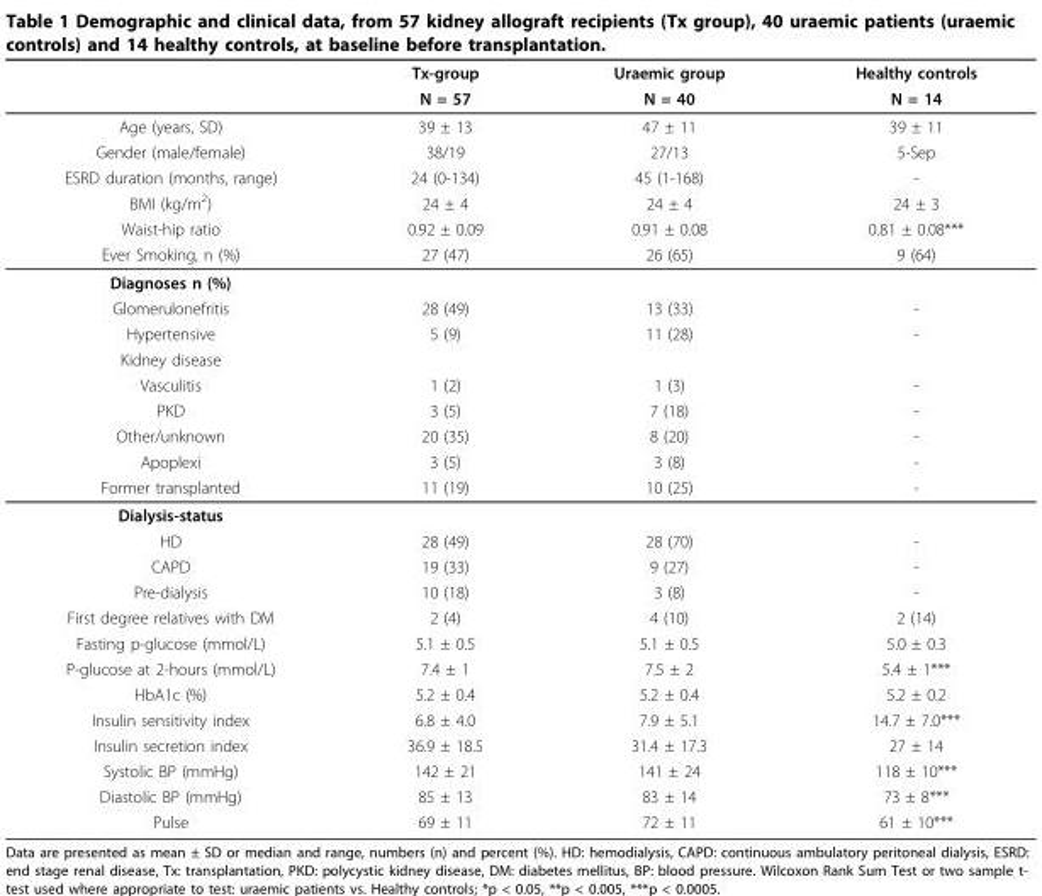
<table><thead><tr><td rowspan="2"></td><td rowspan="2">Tx-group N = 57</td><td rowspan="2">Uraemic group N = 40</td><td rowspan="2">Healthy controls N = 14</td></tr><tr></tr></thead><tbody><tr><td>Age (years, SD)</td><td>39 ± 13</td><td>47 ± 11</td><td>39 ± 11</td></tr><tr><td>Gender (male/female)</td><td>38/19</td><td>27/13</td><td>5-Sep</td></tr><tr><td>ESRD duration (months, range)</td><td>24 (0-134)</td><td>45 (1-168)</td><td>-</td></tr><tr><td>BMI (kg/m<sup>2</sup>)</td><td>24 ± 4</td><td>24 ± 4</td><td>24 ± 3</td></tr><tr><td>Waist-hip ratio</td><td>0.92 ± 0.09</td><td>0.91 ± 0.08</td><td>0.81 ± 0.08***</td></tr><tr><td>Ever Smoking, n (%)</td><td>27 (47)</td><td>26 (65)</td><td>9 (64)</td></tr><tr><td colspan="4">Diagnoses n (%)</td></tr><tr><td>Glomerulonefritis</td><td>28 (49)</td><td>13 (33)</td><td>-</td></tr><tr><td>Hypertensive</td><td>5 (9)</td><td>11 (28)</td><td>-</td></tr><tr><td colspan="4">Kidney disease</td></tr><tr><td>Vasculitis</td><td>1 (2)</td><td>1 (3)</td><td>-</td></tr><tr><td>PKD</td><td>3 (5)</td><td>7 (18)</td><td>-</td></tr><tr><td>Other/unknown</td><td>20 (35)</td><td>8 (20)</td><td>-</td></tr><tr><td>Apoplexi</td><td>3 (5)</td><td>3 (8)</td><td>-</td></tr><tr><td>Former transplanted</td><td>11 (19)</td><td>10 (25)</td><td>-</td></tr><tr><td colspan="4">Dialysis-status</td></tr><tr><td>HD</td><td>28 (49)</td><td>28 (70)</td><td>-</td></tr><tr><td>CAPD</td><td>19 (33)</td><td>9 (27)</td><td>-</td></tr><tr><td>Pre-dialysis</td><td>10 (18)</td><td>3 (8)</td><td>-</td></tr><tr><td>First degree relatives with DM</td><td>2 (4)</td><td>4 (10)</td><td>2 (14)</td></tr><tr><td>Fasting p-glucose (mmol/L)</td><td>5.1 ± 0.5</td><td>5.1 ± 0.5</td><td>5.0 ± 0.3</td></tr><tr><td>P-glucose at 2-hours (mmol/L)</td><td>7.4 ± 1</td><td>7.5 ± 2</td><td>5.4 ± 1***</td></tr><tr><td>HbA1c (%)</td><td>5.2 ± 0.4</td><td>5.2 ± 0.4</td><td>5.2 ± 0.2</td></tr><tr><td>Insulin sensitivity index</td><td>6.8 ± 4.0</td><td>7.9 ± 5.1</td><td>14.7 ± 7.0***</td></tr><tr><td>Insulin secretion index</td><td>36.9 ± 18.5</td><td>31.4 ± 17.3</td><td>27 ± 14</td></tr><tr><td>Systolic BP (mmHg)</td><td>142 ± 21</td><td>141 ± 24</td><td>118 ± 10***</td></tr><tr><td>Diastolic BP (mmHg)</td><td>85 ± 13</td><td>83 ± 14</td><td>73 ± 8***</td></tr><tr><td>Pulse</td><td>69 ± 11</td><td>72 ± 11</td><td>61 ± 10***</td></tr></tbody></table>